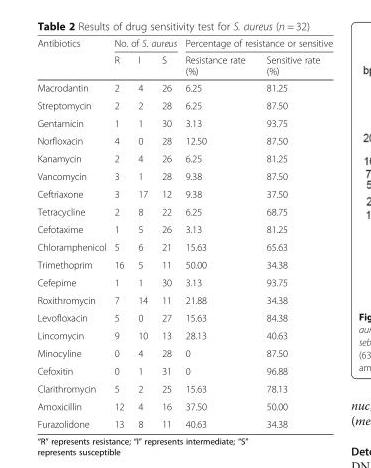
<table><thead><tr><td rowspan="2">Antibiotics</td><td colspan="3">No. of S. aureus</td><td colspan="2">Percentage of resistance or sensitive</td></tr><tr><td>R</td><td>I</td><td>S</td><td>Resistance rate (%)</td><td>Sensitive rate (%)</td></tr></thead><tbody><tr><td>Macrodantin</td><td>2</td><td>4</td><td>26</td><td>6.25</td><td>81.25</td></tr><tr><td>Streptomycin</td><td>2</td><td>2</td><td>28</td><td>6.25</td><td>87.50</td></tr><tr><td>Gentamicin</td><td>1</td><td>1</td><td>30</td><td>3.13</td><td>93.75</td></tr><tr><td>Norfloxacin</td><td>4</td><td>0</td><td>28</td><td>12.50</td><td>87.50</td></tr><tr><td>Kanamycin</td><td>2</td><td>4</td><td>26</td><td>6.25</td><td>81.25</td></tr><tr><td>Vancomycin</td><td>3</td><td>1</td><td>28</td><td>9.38</td><td>87.50</td></tr><tr><td>Ceftriaxone</td><td>3</td><td>17</td><td>12</td><td>9.38</td><td>37.50</td></tr><tr><td>Tetracycline</td><td>2</td><td>8</td><td>22</td><td>6.25</td><td>68.75</td></tr><tr><td>Cefotaxime</td><td>1</td><td>5</td><td>26</td><td>3.13</td><td>81.25</td></tr><tr><td>Chloramphenicol</td><td>5</td><td>6</td><td>21</td><td>15.63</td><td>65.63</td></tr><tr><td>Trimethoprim</td><td>16</td><td>5</td><td>11</td><td>50.00</td><td>34.38</td></tr><tr><td>Cefepime</td><td>1</td><td>1</td><td>30</td><td>3.13</td><td>93.75</td></tr><tr><td>Roxithromycin</td><td>7</td><td>14</td><td>11</td><td>21.88</td><td>34.38</td></tr><tr><td>Levofloxacin</td><td>5</td><td>0</td><td>27</td><td>15.63</td><td>84.38</td></tr><tr><td>Lincomycin</td><td>9</td><td>10</td><td>13</td><td>28.13</td><td>40.63</td></tr><tr><td>Minocyline</td><td>0</td><td>4</td><td>28</td><td>0</td><td>87.50</td></tr><tr><td>Cefoxitin</td><td>0</td><td>1</td><td>31</td><td>0</td><td>96.88</td></tr><tr><td>Clarithromycin</td><td>5</td><td>2</td><td>25</td><td>15.63</td><td>78.13</td></tr><tr><td>Amoxicillin</td><td>12</td><td>4</td><td>16</td><td>37.50</td><td>50.00</td></tr><tr><td>Furazolidone</td><td>13</td><td>8</td><td>11</td><td>40.63</td><td>34.38</td></tr></tbody></table>